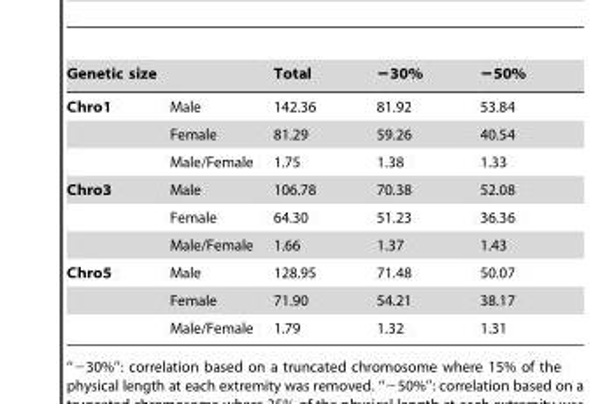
<table><thead><tr><td colspan="2">Genetic size</td><td rowspan="2">Total 142.36</td><td rowspan="2">−30% 81.92</td><td rowspan="2">−50% 53.84</td></tr><tr><td>Chro1</td><td>Male</td></tr></thead><tbody><tr><td></td><td>Female</td><td>81.29</td><td>59.26</td><td>40.54</td></tr><tr><td></td><td>Male/Female</td><td>1.75</td><td>1.38</td><td>1.33</td></tr><tr><td rowspan="3">Chro3</td><td>Male</td><td>106.78</td><td>70.38</td><td>52.08</td></tr><tr><td>Female</td><td>64.30</td><td>51.23</td><td>36.36</td></tr><tr><td>Male/Female</td><td>1.66</td><td>1.37</td><td>1.43</td></tr><tr><td rowspan="3">Chro5</td><td>Male</td><td>128.95</td><td>71.48</td><td>50.07</td></tr><tr><td>Female</td><td>71.90</td><td>54.21</td><td>38.17</td></tr><tr><td>Male/Female</td><td>1.79</td><td>1.32</td><td>1.31</td></tr></tbody></table>